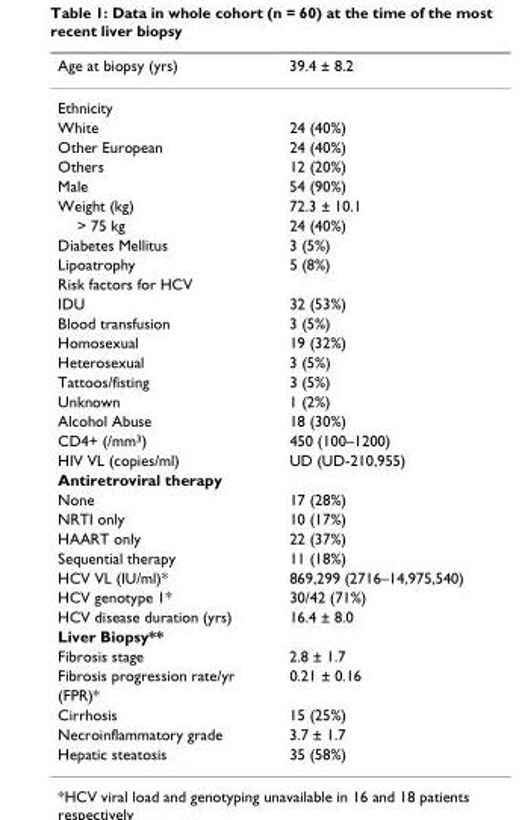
<table><thead><tr><td>Age at biopsy (yrs)</td><td>39.4 ± 8.2</td></tr></thead><tbody><tr><td colspan="2">Ethnicity</td></tr><tr><td>White</td><td>24 (40%)</td></tr><tr><td>Other European</td><td>24 (40%)</td></tr><tr><td>Others</td><td>12 (20%)</td></tr><tr><td>Male</td><td>54 (90%)</td></tr><tr><td>Weight (kg)</td><td>72.3 ± 10.1</td></tr><tr><td>&gt; 75 kg</td><td>24 (40%)</td></tr><tr><td>Diabetes Mellitus</td><td>3 (5%)</td></tr><tr><td>Lipoatrophy</td><td>5 (8%)</td></tr><tr><td colspan="2">Risk factors for HCV</td></tr><tr><td>IDU</td><td>32 (53%)</td></tr><tr><td>Blood transfusion</td><td>3 (5%)</td></tr><tr><td>Homosexual</td><td>19 (32%)</td></tr><tr><td>Heterosexual</td><td>3 (5%)</td></tr><tr><td>Tattoos/fisting</td><td>3 (5%)</td></tr><tr><td>Unknown</td><td>1 (2%)</td></tr><tr><td>Alcohol Abuse</td><td>18 (30%)</td></tr><tr><td>CD4+ (/mm<sup>3</sup>)</td><td>450 (100–1200)</td></tr><tr><td>HIV VL (copies/ml)</td><td>UD (UD-210,955)</td></tr><tr><td colspan="2">Antiretroviral therapy</td></tr><tr><td>None</td><td>17 (28%)</td></tr><tr><td>NRTI only</td><td>10 (17%)</td></tr><tr><td>HAART only</td><td>22 (37%)</td></tr><tr><td>Sequential therapy</td><td>11 (18%)</td></tr><tr><td>HCV VL (IU/ml)*</td><td>869,299 (2716–14,975,540)</td></tr><tr><td>HCV genotype 1*</td><td>30/42 (71%)</td></tr><tr><td>HCV disease duration (yrs)</td><td>16.4 ± 8.0</td></tr><tr><td colspan="2">Liver Biopsy**</td></tr><tr><td>Fibrosis stage</td><td>2.8 ± 1.7</td></tr><tr><td>Fibrosis progression rate/yr</td><td>0.21 ± 0.16</td></tr><tr><td colspan="2">(FPR)*</td></tr><tr><td>Cirrhosis</td><td>15 (25%)</td></tr><tr><td>Necroinflammatory grade</td><td>3.7 ± 1.7</td></tr><tr><td>Hepatic steatosis</td><td>35 (58%)</td></tr></tbody></table>